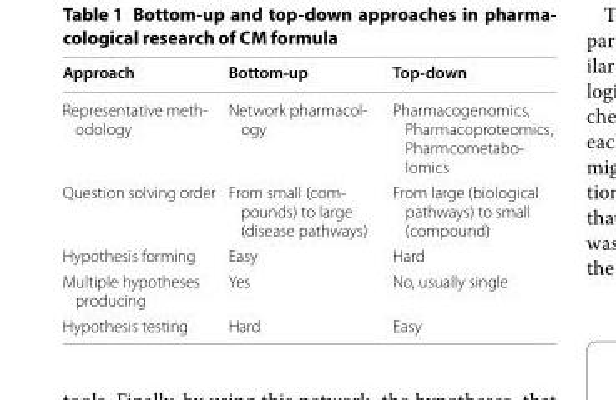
<table><thead><tr><td>Approach</td><td>Bottom-up</td><td>Top-down</td></tr></thead><tbody><tr><td>Representative meth‑ odology</td><td>Network pharmacol‑ ogy</td><td>Pharmacogenomics, Pharmacoproteomics, Pharmcometabo‑ lomics</td></tr><tr><td>Question solving order</td><td>From small (com‑ pounds) to large (disease pathways)</td><td>From large (biological pathways) to small (compound)</td></tr><tr><td>Hypothesis forming</td><td>Easy</td><td>Hard</td></tr><tr><td>Multiple hypotheses producing</td><td>Yes</td><td>No, usually single</td></tr><tr><td>Hypothesis testing</td><td>Hard</td><td>Easy</td></tr></tbody></table>